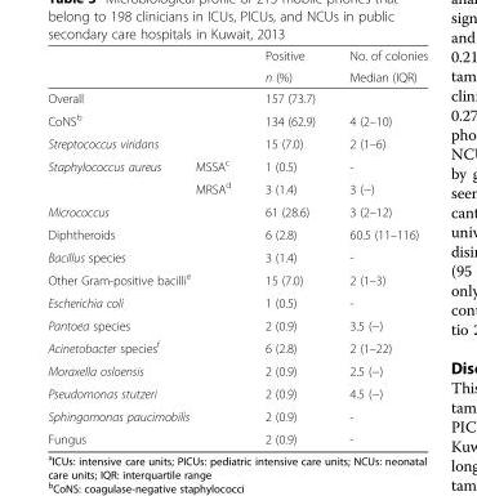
<table><thead><tr><td rowspan="2"></td><td rowspan="2"></td><td rowspan="2">Positive n (%)</td><td rowspan="2">No. of colonies Median (IQR)</td></tr><tr></tr></thead><tbody><tr><td colspan="2">Overall</td><td>157 (73.7)</td><td></td></tr><tr><td colspan="2">CoNS<sup>b</sup></td><td>134 (62.9)</td><td>4 (2–10)</td></tr><tr><td colspan="2">Streptococcus viridans</td><td>15 (7.0)</td><td>2 (1–6)</td></tr><tr><td rowspan="2">Staphylococcus aureus</td><td>MSSA<sup>c</sup></td><td>1 (0.5)</td><td>-</td></tr><tr><td>MRSA<sup>d</sup></td><td>3 (1.4)</td><td>3 (−)</td></tr><tr><td colspan="2">Micrococcus</td><td>61 (28.6)</td><td>3 (2–12)</td></tr><tr><td colspan="2">Diphtheroids</td><td>6 (2.8)</td><td>60.5 (11–116)</td></tr><tr><td colspan="2">Bacillus species</td><td>3 (1.4)</td><td>-</td></tr><tr><td colspan="2">Other Gram-positive bacilli<sup>e</sup></td><td>15 (7.0)</td><td>2 (1–3)</td></tr><tr><td colspan="2">Escherichia coli</td><td>1 (0.5)</td><td>-</td></tr><tr><td colspan="2">Pantoea species</td><td>2 (0.9)</td><td>3.5 (−)</td></tr><tr><td colspan="2">Acinetobacter species<sup>f</sup></td><td>6 (2.8)</td><td>2 (1–22)</td></tr><tr><td colspan="2">Moraxella osloensis</td><td>2 (0.9)</td><td>2.5 (−)</td></tr><tr><td colspan="2">Pseudomonas stutzeri</td><td>2 (0.9)</td><td>4.5 (−)</td></tr><tr><td colspan="2">Sphingomonas paucimobilis</td><td>2 (0.9)</td><td>-</td></tr><tr><td colspan="2">Fungus</td><td>2 (0.9)</td><td>-</td></tr></tbody></table>